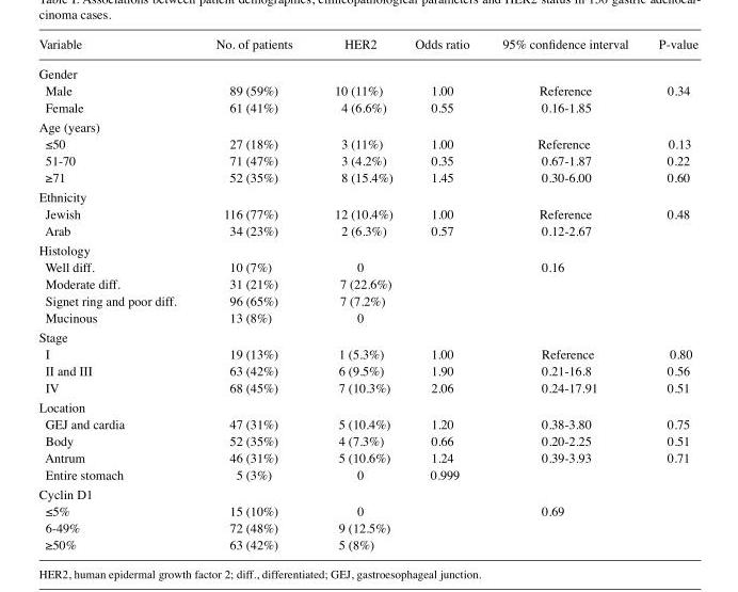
<table><thead><tr><td>Variable</td><td>No. of patients</td><td>HER2</td><td>Odds ratio</td><td>95% confidence interval</td><td>P-value</td></tr></thead><tbody><tr><td colspan="6">Gender</td></tr><tr><td>Male</td><td>89 (59%)</td><td>10 (11%)</td><td>1.00</td><td>Reference</td><td>0.34</td></tr><tr><td>Female</td><td>61 (41%)</td><td>4 (6.6%)</td><td>0.55</td><td>0.16-1.85</td><td></td></tr><tr><td colspan="6">Age (years)</td></tr><tr><td>≤50</td><td>27 (18%)</td><td>3 (11%)</td><td>1.00</td><td>Reference</td><td>0.13</td></tr><tr><td>51-70</td><td>71 (47%)</td><td>3 (4.2%)</td><td>0.35</td><td>0.67-1.87</td><td>0.22</td></tr><tr><td>≥71</td><td>52 (35%)</td><td>8 (15.4%)</td><td>1.45</td><td>0.30-6.00</td><td>0.60</td></tr><tr><td colspan="6">Ethnicity</td></tr><tr><td>Jewish</td><td>116 (77%)</td><td>12 (10.4%)</td><td>1.00</td><td>Reference</td><td>0.48</td></tr><tr><td>Arab</td><td>34 (23%)</td><td>2 (6.3%)</td><td>0.57</td><td>0.12-2.67</td><td></td></tr><tr><td colspan="6">Histology</td></tr><tr><td>Well diff.</td><td>10 (7%)</td><td>0</td><td></td><td>0.16</td><td></td></tr><tr><td>Moderate diff.</td><td>31 (21%)</td><td>7 (22.6%)</td><td></td><td></td><td></td></tr><tr><td>Signet ring and poor diff.</td><td>96 (65%)</td><td>7 (7.2%)</td><td></td><td></td><td></td></tr><tr><td>Mucinous</td><td>13 (8%)</td><td>0</td><td></td><td></td><td></td></tr><tr><td colspan="6">Stage</td></tr><tr><td>I</td><td>19 (13%)</td><td>1 (5.3%)</td><td>1.00</td><td>Reference</td><td>0.80</td></tr><tr><td>II and III</td><td>63 (42%)</td><td>6 (9.5%)</td><td>1.90</td><td>0.21-16.8</td><td>0.56</td></tr><tr><td>IV</td><td>68 (45%)</td><td>7 (10.3%)</td><td>2.06</td><td>0.24-17.91</td><td>0.51</td></tr><tr><td colspan="6">Location</td></tr><tr><td>GEJ and cardia</td><td>47 (31%)</td><td>5 (10.4%)</td><td>1.20</td><td>0.38-3.80</td><td>0.75</td></tr><tr><td>Body</td><td>52 (35%)</td><td>4 (7.3%)</td><td>0.66</td><td>0.20-2.25</td><td>0.51</td></tr><tr><td>Antrum</td><td>46 (31%)</td><td>5 (10.6%)</td><td>1.24</td><td>0.39-3.93</td><td>0.71</td></tr><tr><td>Entire stomach</td><td>5 (3%)</td><td>0</td><td>0.999</td><td></td><td></td></tr><tr><td colspan="6">Cyclin D1</td></tr><tr><td>≤5%</td><td>15 (10%)</td><td>0</td><td></td><td>0.69</td><td></td></tr><tr><td>6-49%</td><td>72 (48%)</td><td>9 (12.5%)</td><td></td><td></td><td></td></tr><tr><td>≥50%</td><td>63 (42%)</td><td>5 (8%)</td><td></td><td></td><td></td></tr></tbody></table>